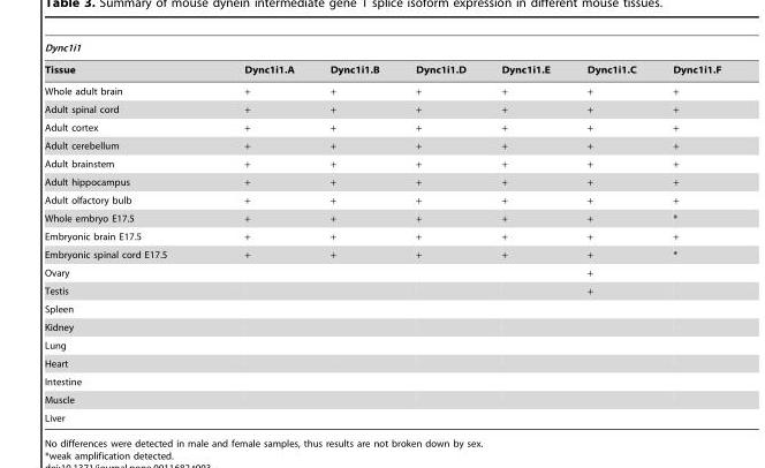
<table><thead><tr><td colspan="7">Dync1i1</td></tr><tr><td>Tissue</td><td>Dync1i1.A</td><td>Dync1i1.B</td><td>Dync1i1.D</td><td>Dync1i1.E</td><td>Dync1i1.C</td><td>Dync1i1.F</td></tr></thead><tbody><tr><td>Whole adult brain</td><td>+</td><td>+</td><td>+</td><td>+</td><td>+</td><td>+</td></tr><tr><td>Adult spinal cord</td><td>+</td><td>+</td><td>+</td><td>+</td><td>+</td><td>+</td></tr><tr><td>Adult cortex</td><td>+</td><td>+</td><td>+</td><td>+</td><td>+</td><td>+</td></tr><tr><td>Adult cerebellum</td><td>+</td><td>+</td><td>+</td><td>+</td><td>+</td><td>+</td></tr><tr><td>Adult brainstem</td><td>+</td><td>+</td><td>+</td><td>+</td><td>+</td><td>+</td></tr><tr><td>Adult hippocampus</td><td>+</td><td>+</td><td>+</td><td>+</td><td>+</td><td>+</td></tr><tr><td>Adult olfactory bulb</td><td>+</td><td>+</td><td>+</td><td>+</td><td>+</td><td>+</td></tr><tr><td>Whole embryo E17.5</td><td>+</td><td>+</td><td>+</td><td>+</td><td>+</td><td>*</td></tr><tr><td>Embryonic brain E17.5</td><td>+</td><td>+</td><td>+</td><td>+</td><td>+</td><td>+</td></tr><tr><td>Embryonic spinal cord E17.5</td><td>+</td><td>+</td><td>+</td><td>+</td><td>+</td><td>*</td></tr><tr><td>Ovary</td><td></td><td></td><td></td><td></td><td>+</td><td></td></tr><tr><td>Testis</td><td></td><td></td><td></td><td></td><td>+</td><td></td></tr><tr><td colspan="7">Spleen</td></tr><tr><td colspan="7">Kidney</td></tr><tr><td colspan="7">Lung</td></tr><tr><td colspan="7">Heart</td></tr><tr><td colspan="7">Intestine</td></tr><tr><td colspan="7">Muscle</td></tr><tr><td>Liver</td><td></td><td></td><td></td><td></td><td></td><td></td></tr></tbody></table>